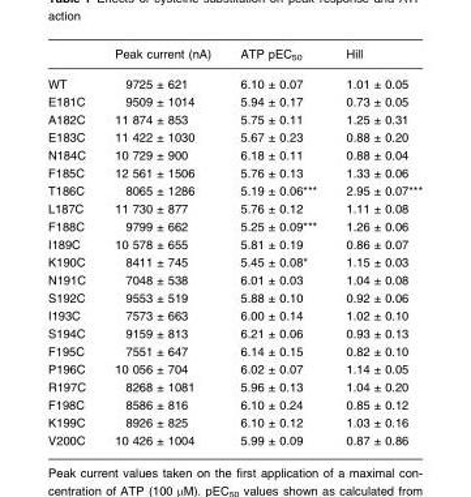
<table><thead><tr><td></td><td>Peak current (nA)</td><td>ATP pEC<sub>50</sub></td><td>Hill</td></tr></thead><tbody><tr><td>WT</td><td>9725 ± 621</td><td>6.10 ± 0.07</td><td>1.01 ± 0.05</td></tr><tr><td>E181C</td><td>9509 ± 1014</td><td>5.94 ± 0.17</td><td>0.73 ± 0.05</td></tr><tr><td>A182C</td><td>11 874 ± 853</td><td>5.75 ± 0.11</td><td>1.25 ± 0.31</td></tr><tr><td>E183C</td><td>11 422 ± 1030</td><td>5.67 ± 0.23</td><td>0.88 ± 0.20</td></tr><tr><td>N184C</td><td>10 729 ± 900</td><td>6.18 ± 0.11</td><td>0.88 ± 0.04</td></tr><tr><td>F185C</td><td>12 561 ± 1506</td><td>5.76 ± 0.13</td><td>1.33 ± 0.06</td></tr><tr><td>T186C</td><td>8065 ± 1286</td><td>5.19 ± 0.06***</td><td>2.95 ± 0.07***</td></tr><tr><td>L187C</td><td>11 730 ± 877</td><td>5.76 ± 0.12</td><td>1.11 ± 0.08</td></tr><tr><td>F188C</td><td>9799 ± 662</td><td>5.25 ± 0.09***</td><td>1.26 ± 0.06</td></tr><tr><td>I189C</td><td>10 578 ± 655</td><td>5.81 ± 0.19</td><td>0.86 ± 0.07</td></tr><tr><td>K190C</td><td>8411 ± 745</td><td>5.45 ± 0.08*</td><td>1.15 ± 0.03</td></tr><tr><td>N191C</td><td>7048 ± 538</td><td>6.01 ± 0.03</td><td>1.04 ± 0.08</td></tr><tr><td>S192C</td><td>9553 ± 519</td><td>5.88 ± 0.10</td><td>0.92 ± 0.06</td></tr><tr><td>I193C</td><td>7573 ± 663</td><td>6.00 ± 0.14</td><td>1.02 ± 0.10</td></tr><tr><td>S194C</td><td>9159 ± 813</td><td>6.21 ± 0.06</td><td>0.93 ± 0.13</td></tr><tr><td>F195C</td><td>7551 ± 647</td><td>6.14 ± 0.15</td><td>0.82 ± 0.10</td></tr><tr><td>P196C</td><td>10 056 ± 704</td><td>6.02 ± 0.07</td><td>1.14 ± 0.05</td></tr><tr><td>R197C</td><td>8268 ± 1081</td><td>5.96 ± 0.13</td><td>1.04 ± 0.20</td></tr><tr><td>F198C</td><td>8586 ± 816</td><td>6.10 ± 0.24</td><td>0.85 ± 0.12</td></tr><tr><td>K199C</td><td>8926 ± 825</td><td>6.10 ± 0.12</td><td>1.03 ± 0.16</td></tr><tr><td>V200C</td><td>10 426 ± 1004</td><td>5.99 ± 0.09</td><td>0.87 ± 0.86</td></tr></tbody></table>